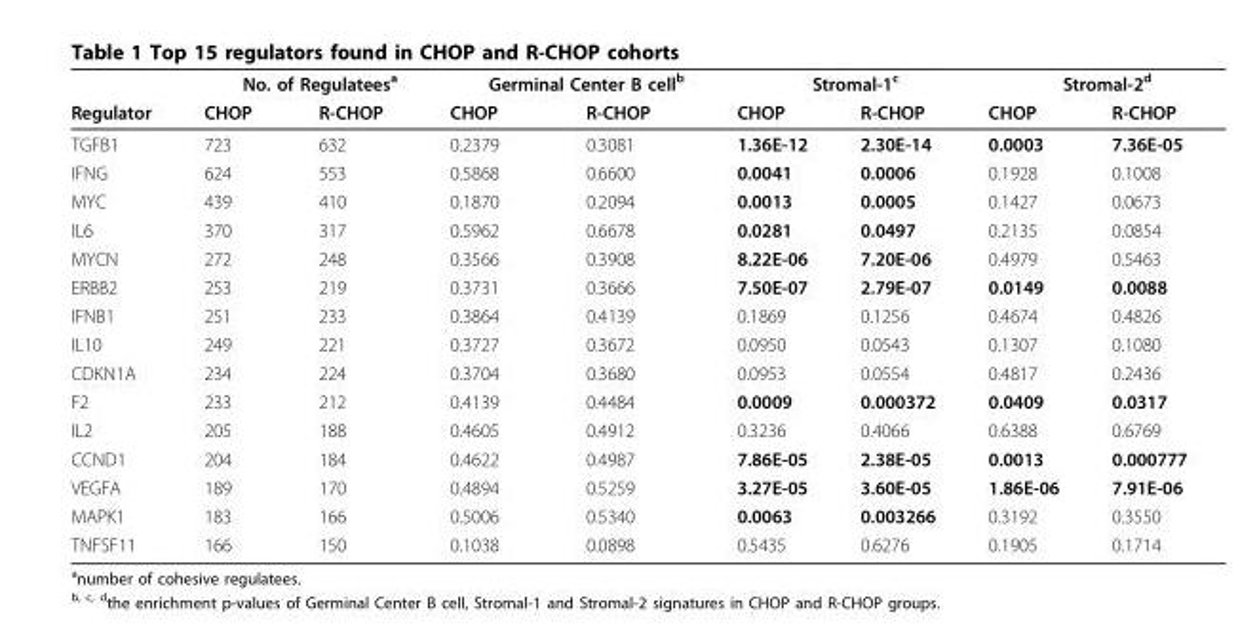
<table><thead><tr><td rowspan="2">Regulator</td><td colspan="2">No. of Regulatees<sup>a</sup></td><td colspan="2">Germinal Center B cell<sup>b</sup></td><td colspan="2">Stromal-1<sup>c</sup></td><td colspan="2">Stromal-2<sup>d</sup></td></tr><tr><td>CHOP</td><td>R-CHOP</td><td>CHOP</td><td>R-CHOP</td><td>CHOP</td><td>R-CHOP</td><td>CHOP</td><td>R-CHOP</td></tr></thead><tbody><tr><td>TGFB1</td><td>723</td><td>632</td><td>0.2379</td><td>0.3081</td><td>1.36E-12</td><td>2.30E-14</td><td>0.0003</td><td>7.36E-05</td></tr><tr><td>IFNG</td><td>624</td><td>553</td><td>0.5868</td><td>0.6600</td><td>0.0041</td><td>0.0006</td><td>0.1928</td><td>0.1008</td></tr><tr><td>MYC</td><td>439</td><td>410</td><td>0.1870</td><td>0.2094</td><td>0.0013</td><td>0.0005</td><td>0.1427</td><td>0.0673</td></tr><tr><td>IL6</td><td>370</td><td>317</td><td>0.5962</td><td>0.6678</td><td>0.0281</td><td>0.0497</td><td>0.2135</td><td>0.0854</td></tr><tr><td>MYCN</td><td>272</td><td>248</td><td>0.3566</td><td>0.3908</td><td>8.22E-06</td><td>7.20E-06</td><td>0.4979</td><td>0.5463</td></tr><tr><td>ERBB2</td><td>253</td><td>219</td><td>0.3731</td><td>0.3666</td><td>7.50E-07</td><td>2.79E-07</td><td>0.0149</td><td>0.0088</td></tr><tr><td>IFNB1</td><td>251</td><td>233</td><td>0.3864</td><td>0.4139</td><td>0.1869</td><td>0.1256</td><td>0.4674</td><td>0.4826</td></tr><tr><td>IL10</td><td>249</td><td>221</td><td>0.3727</td><td>0.3672</td><td>0.0950</td><td>0.0543</td><td>0.1307</td><td>0.1080</td></tr><tr><td>CDKN1A</td><td>234</td><td>224</td><td>0.3704</td><td>0.3680</td><td>0.0953</td><td>0.0554</td><td>0.4817</td><td>0.2436</td></tr><tr><td>F2</td><td>233</td><td>212</td><td>0.4139</td><td>0.4484</td><td>0.0009</td><td>0.000372</td><td>0.0409</td><td>0.0317</td></tr><tr><td>IL2</td><td>205</td><td>188</td><td>0.4605</td><td>0.4912</td><td>0.3236</td><td>0.4066</td><td>0.6388</td><td>0.6769</td></tr><tr><td>CCND1</td><td>204</td><td>184</td><td>0.4622</td><td>0.4987</td><td>7.86E-05</td><td>2.38E-05</td><td>0.0013</td><td>0.000777</td></tr><tr><td>VEGFA</td><td>189</td><td>170</td><td>0.4894</td><td>0.5259</td><td>3.27E-05</td><td>3.60E-05</td><td>1.86E-06</td><td>7.91E-06</td></tr><tr><td>MAPK1</td><td>183</td><td>166</td><td>0.5006</td><td>0.5340</td><td>0.0063</td><td>0.003266</td><td>0.3192</td><td>0.3550</td></tr><tr><td>TNFSF11</td><td>166</td><td>150</td><td>0.1038</td><td>0.0898</td><td>0.5435</td><td>0.6276</td><td>0.1905</td><td>0.1714</td></tr></tbody></table>